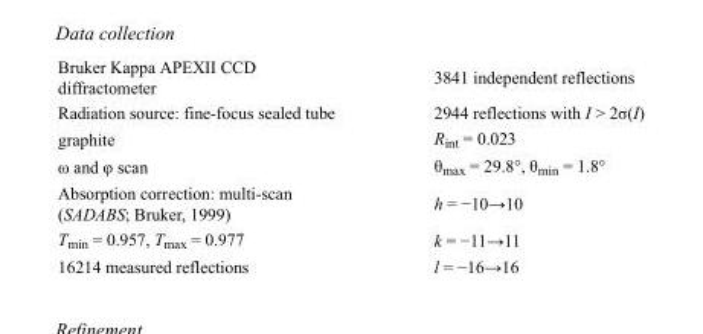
<table><tbody><tr><td>Bruker Kappa APEXII CCD diffractometer</td><td>3841 independent reflections</td></tr><tr><td>Radiation source: fine-focus sealed tube</td><td>2944 reflections with I &gt; 2σ(I)</td></tr><tr><td>graphite</td><td>R<sub>int</sub> = 0.023</td></tr><tr><td>ω and φ scan</td><td>θ<sub>max</sub> = 29.8°, θ<sub>min</sub> = 1.8°</td></tr><tr><td>Absorption correction: multi-scan (SADABS; Bruker, 1999)</td><td>h = −10→10</td></tr><tr><td>T<sub>min</sub> = 0.957, T<sub>max</sub> = 0.977</td><td>k = −11→11</td></tr><tr><td>16214 measured reflections</td><td>l = −16→16</td></tr></tbody></table>